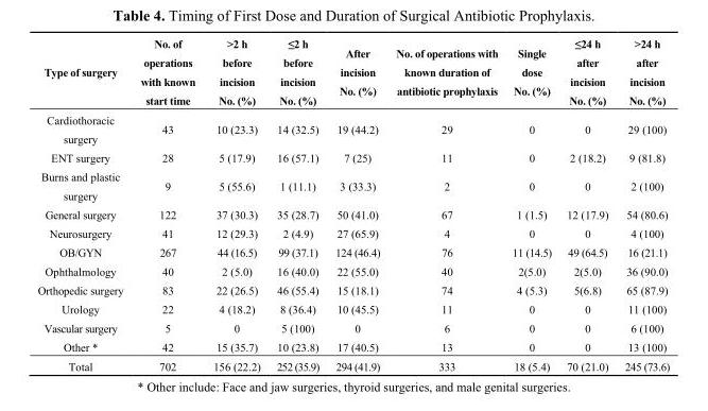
<table><thead><tr><td>Type of surgery</td><td>No. of operations with known start time</td><td>&gt;2 h before incision No. (%)</td><td>≤2 h before incision No. (%)</td><td>After incision No. (%)</td><td>No. of operations with known duration of antibiotic prophylaxis</td><td>Single dose No. (%)</td><td>≤24 h after incision No. (%)</td><td>&gt;24 h after incision No. (%)</td></tr></thead><tbody><tr><td>Cardiothoracic surgery</td><td>43</td><td>10 (23.3)</td><td>14 (32.5)</td><td>19 (44.2)</td><td>29</td><td>0</td><td>0</td><td>29 (100)</td></tr><tr><td>ENT surgery</td><td>28</td><td>5 (17.9)</td><td>16 (57.1)</td><td>7 (25)</td><td>11</td><td>0</td><td>2 (18.2)</td><td>9 (81.8)</td></tr><tr><td>Burns and plastic surgery</td><td>9</td><td>5 (55.6)</td><td>1 (11.1)</td><td>3 (33.3)</td><td>2</td><td>0</td><td>0</td><td>2 (100)</td></tr><tr><td>General surgery</td><td>122</td><td>37 (30.3)</td><td>35 (28.7)</td><td>50 (41.0)</td><td>67</td><td>1 (1.5)</td><td>12 (17.9)</td><td>54 (80.6)</td></tr><tr><td>Neurosurgery</td><td>41</td><td>12 (29.3)</td><td>2 (4.9)</td><td>27 (65.9)</td><td>4</td><td>0</td><td>0</td><td>4 (100)</td></tr><tr><td>OB/GYN</td><td>267</td><td>44 (16.5)</td><td>99 (37.1)</td><td>124 (46.4)</td><td>76</td><td>11 (14.5)</td><td>49 (64.5)</td><td>16 (21.1)</td></tr><tr><td>Ophthalmology</td><td>40</td><td>2 (5.0)</td><td>16 (40.0)</td><td>22 (55.0)</td><td>40</td><td>2(5.0)</td><td>2(5.0)</td><td>36 (90.0)</td></tr><tr><td>Orthopedic surgery</td><td>83</td><td>22 (26.5)</td><td>46 (55.4)</td><td>15 (18.1)</td><td>74</td><td>4 (5.3)</td><td>5(6.8)</td><td>65 (87.9)</td></tr><tr><td>Urology</td><td>22</td><td>4 (18.2)</td><td>8 (36.4)</td><td>10 (45.5)</td><td>11</td><td>0</td><td>0</td><td>11 (100)</td></tr><tr><td>Vascular surgery</td><td>5</td><td>0</td><td>5 (100)</td><td>0</td><td>6</td><td>0</td><td>0</td><td>6 (100)</td></tr><tr><td>Other *</td><td>42</td><td>15 (35.7)</td><td>10 (23.8)</td><td>17 (40.5)</td><td>13</td><td>0</td><td>0</td><td>13 (100)</td></tr><tr><td>Total</td><td>702</td><td>156 (22.2)</td><td>252 (35.9)</td><td>294 (41.9)</td><td>333</td><td>18 (5.4)</td><td>70 (21.0)</td><td>245 (73.6)</td></tr></tbody></table>